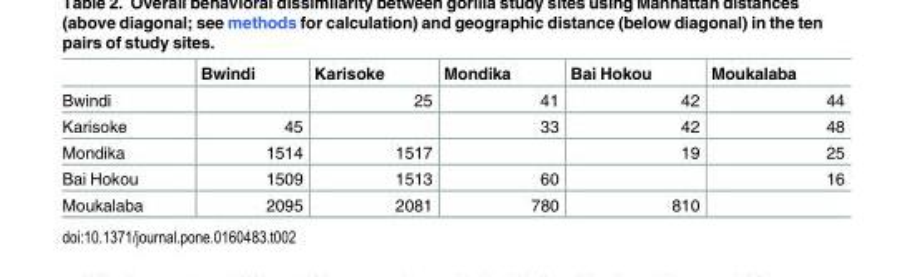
<table><thead><tr><td></td><td>Bwindi</td><td>Karisoke</td><td>Mondika</td><td>Bai Hokou</td><td>Moukalaba</td></tr></thead><tbody><tr><td>Bwindi</td><td></td><td>25</td><td>41</td><td>42</td><td>44</td></tr><tr><td>Karisoke</td><td>45</td><td></td><td>33</td><td>42</td><td>48</td></tr><tr><td>Mondika</td><td>1514</td><td>1517</td><td></td><td>19</td><td>25</td></tr><tr><td>Bai Hokou</td><td>1509</td><td>1513</td><td>60</td><td></td><td>16</td></tr><tr><td>Moukalaba</td><td>2095</td><td>2081</td><td>780</td><td>810</td><td></td></tr></tbody></table>